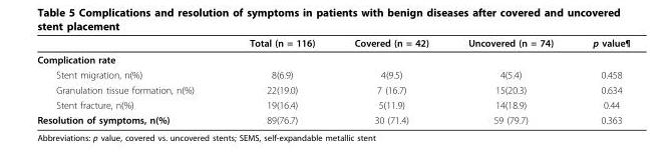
<table><thead><tr><td></td><td>Total (n = 116)</td><td>Covered (n = 42)</td><td>Uncovered (n = 74)</td><td>p value¶</td></tr></thead><tbody><tr><td colspan="5">Complication rate</td></tr><tr><td>Stent migration, n(%)</td><td>8(6.9)</td><td>4(9.5)</td><td>4(5.4)</td><td>0.458</td></tr><tr><td>Granulation tissue formation, n(%)</td><td>22(19.0)</td><td>7 (16.7)</td><td>15(20.3)</td><td>0.634</td></tr><tr><td>Stent fracture, n(%)</td><td>19(16.4)</td><td>5(11.9)</td><td>14(18.9)</td><td>0.44</td></tr><tr><td>Resolution of symptoms, n(%)</td><td>89(76.7)</td><td>30 (71.4)</td><td>59 (79.7)</td><td>0.363</td></tr></tbody></table>